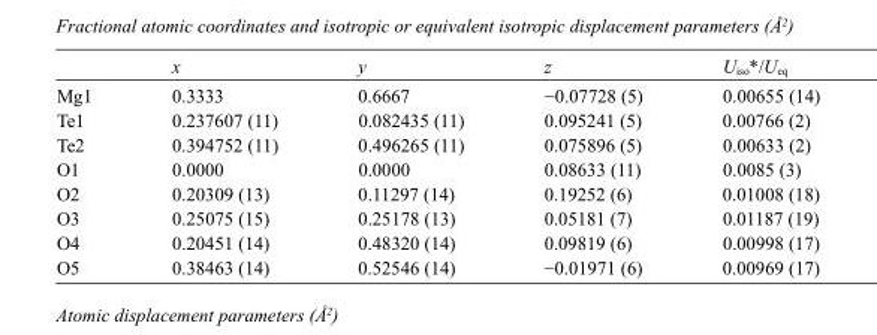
<table><thead><tr><td></td><td>x</td><td>y</td><td>z</td><td>U<sub>iso</sub>*/U<sub>eq</sub></td></tr></thead><tbody><tr><td>Mg1</td><td>0.3333</td><td>0.6667</td><td>−0.07728 (5)</td><td>0.00655 (14)</td></tr><tr><td>Te1</td><td>0.237607 (11)</td><td>0.082435 (11)</td><td>0.095241 (5)</td><td>0.00766 (2)</td></tr><tr><td>Te2</td><td>0.394752 (11)</td><td>0.496265 (11)</td><td>0.075896 (5)</td><td>0.00633 (2)</td></tr><tr><td>O1</td><td>0.0000</td><td>0.0000</td><td>0.08633 (11)</td><td>0.0085 (3)</td></tr><tr><td>O2</td><td>0.20309 (13)</td><td>0.11297 (14)</td><td>0.19252 (6)</td><td>0.01008 (18)</td></tr><tr><td>O3</td><td>0.25075 (15)</td><td>0.25178 (13)</td><td>0.05181 (7)</td><td>0.01187 (19)</td></tr><tr><td>O4</td><td>0.20451 (14)</td><td>0.48320 (14)</td><td>0.09819 (6)</td><td>0.00998 (17)</td></tr><tr><td>O5</td><td>0.38463 (14)</td><td>0.52546 (14)</td><td>−0.01971 (6)</td><td>0.00969 (17)</td></tr></tbody></table>